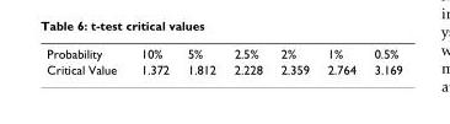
<table><tbody><tr><td>Probability</td><td>10%</td><td>5%</td><td>2.5%</td><td>2%</td><td>1%</td><td>0.5%</td></tr><tr><td>Critical Value</td><td>1.372</td><td>1.812</td><td>2.228</td><td>2.359</td><td>2.764</td><td>3.169</td></tr></tbody></table>